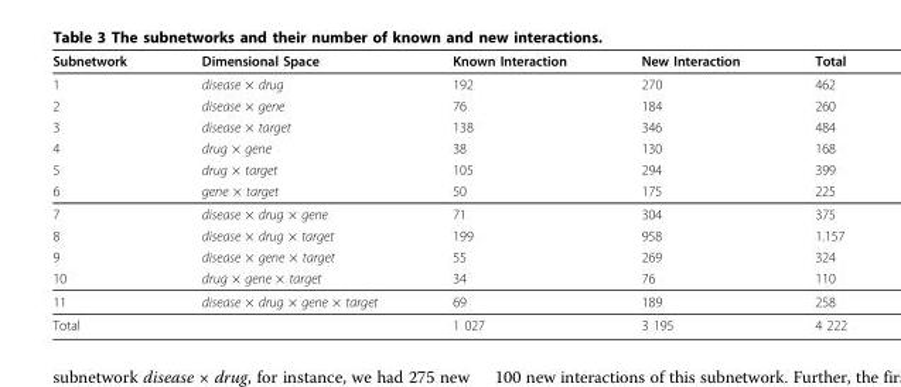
<table><thead><tr><td>Subnetwork</td><td>Dimensional Space</td><td>Known Interaction</td><td>New Interaction</td><td>Total</td></tr></thead><tbody><tr><td>1</td><td>disease × drug</td><td>192</td><td>270</td><td>462</td></tr><tr><td>2</td><td>disease × gene</td><td>76</td><td>184</td><td>260</td></tr><tr><td>3</td><td>disease × target</td><td>138</td><td>346</td><td>484</td></tr><tr><td>4</td><td>drug × gene</td><td>38</td><td>130</td><td>168</td></tr><tr><td>5</td><td>drug × target</td><td>105</td><td>294</td><td>399</td></tr><tr><td>6</td><td>gene × target</td><td>50</td><td>175</td><td>225</td></tr><tr><td>7</td><td>disease × drug × gene</td><td>71</td><td>304</td><td>375</td></tr><tr><td>8</td><td>disease × drug × target</td><td>199</td><td>958</td><td>1.157</td></tr><tr><td>9</td><td>disease × gene × target</td><td>55</td><td>269</td><td>324</td></tr><tr><td>10</td><td>drug × gene × target</td><td>34</td><td>76</td><td>110</td></tr><tr><td>11</td><td>disease × drug × gene × target</td><td>69</td><td>189</td><td>258</td></tr><tr><td>Total</td><td></td><td>1 027</td><td>3 195</td><td>4 222</td></tr></tbody></table>